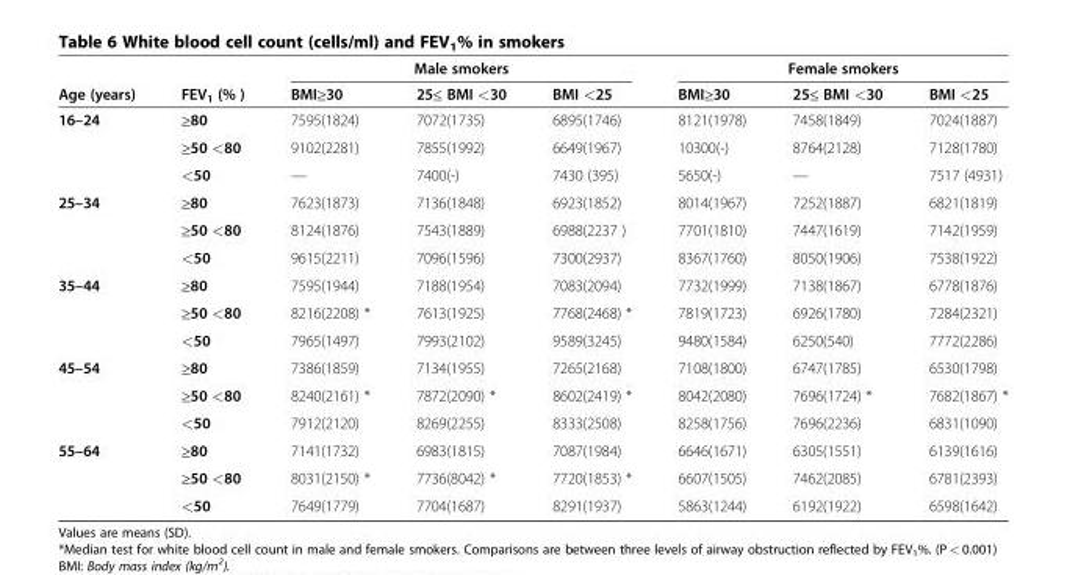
<table><thead><tr><td rowspan="2">Age (years)</td><td rowspan="2">FEV<sub>1</sub> (% )</td><td colspan="3">Male smokers</td><td colspan="3">Female smokers</td></tr><tr><td>BMI≥30</td><td>25≤ BMI &lt;30</td><td>BMI &lt;25</td><td>BMI≥30</td><td>25≤ BMI &lt;30</td><td>BMI &lt;25</td></tr></thead><tbody><tr><td rowspan="3">16–24</td><td>≥80</td><td>7595(1824)</td><td>7072(1735)</td><td>6895(1746)</td><td>8121(1978)</td><td>7458(1849)</td><td>7024(1887)</td></tr><tr><td>≥50 &lt;80</td><td>9102(2281)</td><td>7855(1992)</td><td>6649(1967)</td><td>10300(-)</td><td>8764(2128)</td><td>7128(1780)</td></tr><tr><td>&lt;50</td><td>—</td><td>7400(-)</td><td>7430 (395)</td><td>5650(-)</td><td>—</td><td>7517 (4931)</td></tr><tr><td rowspan="3">25–34</td><td>≥80</td><td>7623(1873)</td><td>7136(1848)</td><td>6923(1852)</td><td>8014(1967)</td><td>7252(1887)</td><td>6821(1819)</td></tr><tr><td>≥50 &lt;80</td><td>8124(1876)</td><td>7543(1889)</td><td>6988(2237 )</td><td>7701(1810)</td><td>7447(1619)</td><td>7142(1959)</td></tr><tr><td>&lt;50</td><td>9615(2211)</td><td>7096(1596)</td><td>7300(2937)</td><td>8367(1760)</td><td>8050(1906)</td><td>7538(1922)</td></tr><tr><td rowspan="3">35–44</td><td>≥80</td><td>7595(1944)</td><td>7188(1954)</td><td>7083(2094)</td><td>7732(1999)</td><td>7138(1867)</td><td>6778(1876)</td></tr><tr><td>≥50 &lt;80</td><td>8216(2208) *</td><td>7613(1925)</td><td>7768(2468) *</td><td>7819(1723)</td><td>6926(1780)</td><td>7284(2321)</td></tr><tr><td>&lt;50</td><td>7965(1497)</td><td>7993(2102)</td><td>9589(3245)</td><td>9480(1584)</td><td>6250(540)</td><td>7772(2286)</td></tr><tr><td rowspan="3">45–54</td><td>≥80</td><td>7386(1859)</td><td>7134(1955)</td><td>7265(2168)</td><td>7108(1800)</td><td>6747(1785)</td><td>6530(1798)</td></tr><tr><td>≥50 &lt;80</td><td>8240(2161) *</td><td>7872(2090) *</td><td>8602(2419) *</td><td>8042(2080)</td><td>7696(1724) *</td><td>7682(1867) *</td></tr><tr><td>&lt;50</td><td>7912(2120)</td><td>8269(2255)</td><td>8333(2508)</td><td>8258(1756)</td><td>7696(2236)</td><td>6831(1090)</td></tr><tr><td rowspan="3">55–64</td><td>≥80</td><td>7141(1732)</td><td>6983(1815)</td><td>7087(1984)</td><td>6646(1671)</td><td>6305(1551)</td><td>6139(1616)</td></tr><tr><td>≥50 &lt;80</td><td>8031(2150) *</td><td>7736(8042) *</td><td>7720(1853) *</td><td>6607(1505)</td><td>7462(2085)</td><td>6781(2393)</td></tr><tr><td>&lt;50</td><td>7649(1779)</td><td>7704(1687)</td><td>8291(1937)</td><td>5863(1244)</td><td>6192(1922)</td><td>6598(1642)</td></tr></tbody></table>